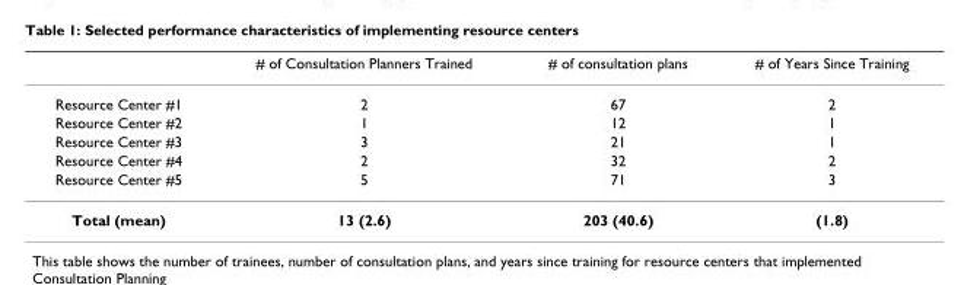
<table><thead><tr><td></td><td># of Consultation Planners Trained</td><td># of consultation plans</td><td># of Years Since Training</td></tr></thead><tbody><tr><td>Resource Center #1</td><td>2</td><td>67</td><td>2</td></tr><tr><td>Resource Center #2</td><td>1</td><td>12</td><td>1</td></tr><tr><td>Resource Center #3</td><td>3</td><td>21</td><td>1</td></tr><tr><td>Resource Center #4</td><td>2</td><td>32</td><td>2</td></tr><tr><td>Resource Center #5</td><td>5</td><td>71</td><td>3</td></tr><tr><td>Total (mean)</td><td>13 (2.6)</td><td>203 (40.6)</td><td>(1.8)</td></tr></tbody></table>